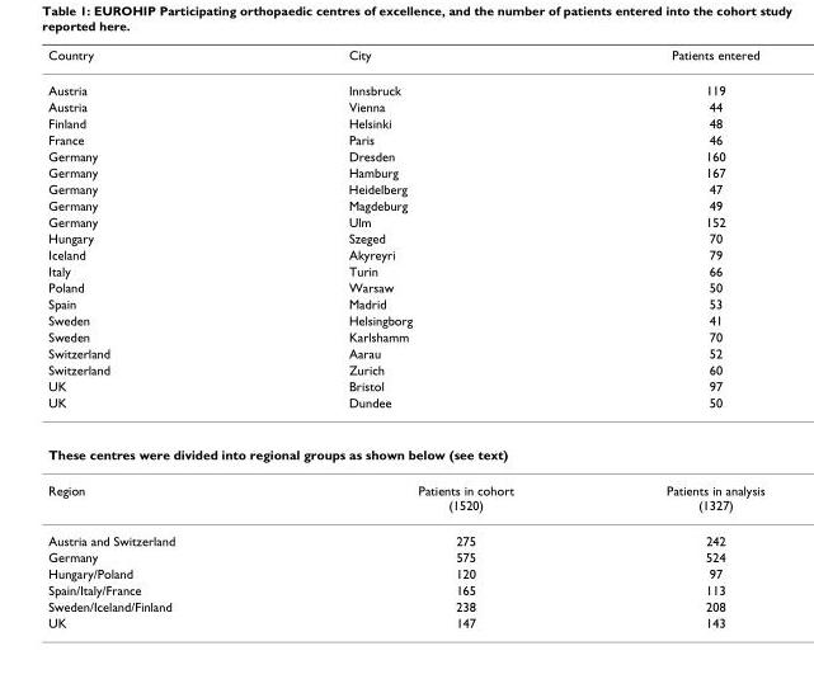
<table><thead><tr><td>Country</td><td>City</td><td>Patients entered</td></tr></thead><tbody><tr><td>Austria</td><td>Innsbruck</td><td>119</td></tr><tr><td>Austria</td><td>Vienna</td><td>44</td></tr><tr><td>Finland</td><td>Helsinki</td><td>48</td></tr><tr><td>France</td><td>Paris</td><td>46</td></tr><tr><td>Germany</td><td>Dresden</td><td>160</td></tr><tr><td>Germany</td><td>Hamburg</td><td>167</td></tr><tr><td>Germany</td><td>Heidelberg</td><td>47</td></tr><tr><td>Germany</td><td>Magdeburg</td><td>49</td></tr><tr><td>Germany</td><td>Ulm</td><td>152</td></tr><tr><td>Hungary</td><td>Szeged</td><td>70</td></tr><tr><td>Iceland</td><td>Akyreyri</td><td>79</td></tr><tr><td>Italy</td><td>Turin</td><td>66</td></tr><tr><td>Poland</td><td>Warsaw</td><td>50</td></tr><tr><td>Spain</td><td>Madrid</td><td>53</td></tr><tr><td>Sweden</td><td>Helsingborg</td><td>41</td></tr><tr><td>Sweden</td><td>Karlshamm</td><td>70</td></tr><tr><td>Switzerland</td><td>Aarau</td><td>52</td></tr><tr><td>Switzerland</td><td>Zurich</td><td>60</td></tr><tr><td>UK</td><td>Bristol</td><td>97</td></tr><tr><td>UK</td><td>Dundee</td><td>50</td></tr><tr><td colspan="3">These centres were divided into regional groups as shown below (see text)</td></tr><tr><td>Region</td><td>Patients in cohort (1520)</td><td>Patients in analysis (1327)</td></tr><tr><td>Austria and Switzerland</td><td>275</td><td>242</td></tr><tr><td>Germany</td><td>575</td><td>524</td></tr><tr><td>Hungary/Poland</td><td>120</td><td>97</td></tr><tr><td>Spain/Italy/France</td><td>165</td><td>113</td></tr><tr><td>Sweden/Iceland/Finland</td><td>238</td><td>208</td></tr><tr><td>UK</td><td>147</td><td>143</td></tr></tbody></table>